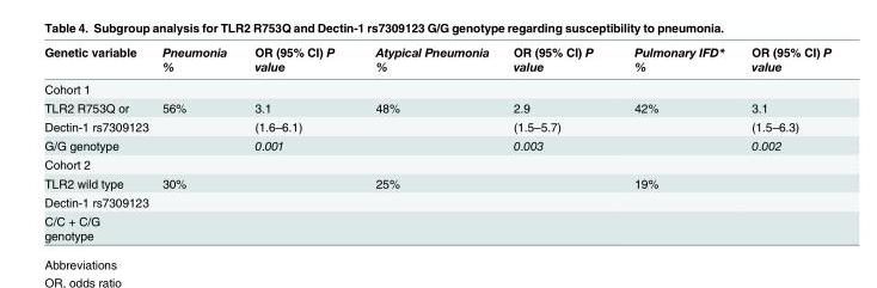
<table><thead><tr><td>Genetic variable</td><td>Pneumonia %</td><td>OR (95% CI) P value</td><td>Atypical Pneumonia %</td><td>OR (95% CI) P value</td><td>Pulmonary IFD* %</td><td>OR (95% CI) P value</td></tr></thead><tbody><tr><td colspan="7">Cohort 1</td></tr><tr><td>TLR2 R753Q or</td><td>56%</td><td>3.1</td><td>48%</td><td>2.9</td><td>42%</td><td>3.1</td></tr><tr><td>Dectin-1 rs7309123</td><td></td><td>(1.6–6.1)</td><td></td><td>(1.5–5.7)</td><td></td><td>(1.5–6.3)</td></tr><tr><td>G/G genotype</td><td></td><td>0.001</td><td></td><td>0.003</td><td></td><td>0.002</td></tr><tr><td colspan="7">Cohort 2</td></tr><tr><td>TLR2 wild type</td><td>30%</td><td></td><td>25%</td><td></td><td>19%</td><td></td></tr><tr><td colspan="7">Dectin-1 rs7309123</td></tr><tr><td>C/C + C/G genotype</td><td></td><td></td><td></td><td></td><td></td><td></td></tr></tbody></table>